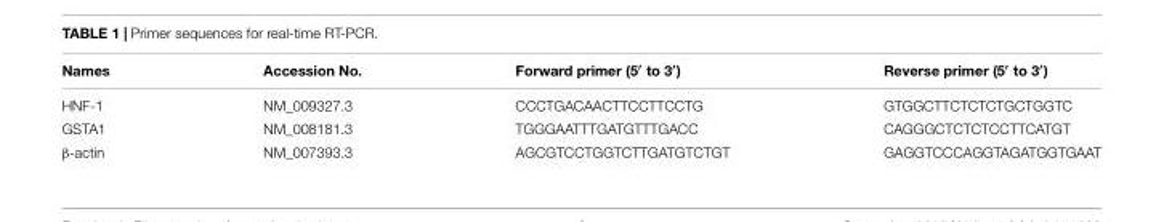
<table><thead><tr><td>Names</td><td>Accession No.</td><td>Forward primer (5′ to 3′)</td><td>Reverse primer (5′ to 3′)</td></tr></thead><tbody><tr><td>HNF-1</td><td>NM_009327.3</td><td>CCCTGACAACTTCCTTCCTG</td><td>GTGGCTTCTCTCTGCTGGTC</td></tr><tr><td>GSTA1</td><td>NM_008181.3</td><td>TGGGAATTTGATGTTTGACC</td><td>CAGGGCTCTCTCCTTCATGT</td></tr><tr><td>β-actin</td><td>NM_007393.3</td><td>AGCGTCCTGGTCTTGATGTCTGT</td><td>GAGGTCCCAGGTAGATGGTGAAT</td></tr></tbody></table>